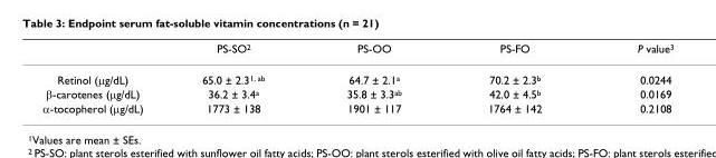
<table><thead><tr><td></td><td>PS-SO<sup>2</sup></td><td>PS-OO</td><td>PS-FO</td><td>P value<sup>3</sup></td></tr></thead><tbody><tr><td>Retinol (µg/dL)</td><td>65.0 ± 2.3<sup>1, ab</sup></td><td>64.7 ± 2.1<sup>a</sup></td><td>70.2 ± 2.3<sup>b</sup></td><td>0.0244</td></tr><tr><td>β-carotenes (µg/dL)</td><td>36.2 ± 3.4<sup>a</sup></td><td>35.8 ± 3.3<sup>ab</sup></td><td>42.0 ± 4.5<sup>b</sup></td><td>0.0169</td></tr><tr><td>α-tocopherol (µg/dL)</td><td>1773 ± 138</td><td>1901 ± 117</td><td>1764 ± 142</td><td>0.2108</td></tr></tbody></table>